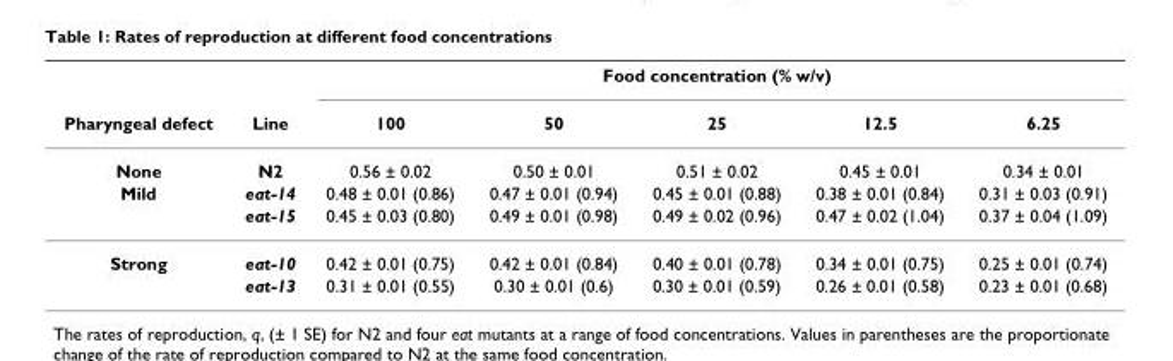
<table><thead><tr><td rowspan="2">Pharyngeal defect</td><td rowspan="2">Line</td><td colspan="5">Food concentration (% w/v)</td></tr><tr><td>100</td><td>50</td><td>25</td><td>12.5</td><td>6.25</td></tr></thead><tbody><tr><td>None</td><td>N2</td><td>0.56 ± 0.02</td><td>0.50 ± 0.01</td><td>0.51 ± 0.02</td><td>0.45 ± 0.01</td><td>0.34 ± 0.01</td></tr><tr><td rowspan="2">Mild</td><td>eat-14</td><td>0.48 ± 0.01 (0.86)</td><td>0.47 ± 0.01 (0.94)</td><td>0.45 ± 0.01 (0.88)</td><td>0.38 ± 0.01 (0.84)</td><td>0.31 ± 0.03 (0.91)</td></tr><tr><td>eat-15</td><td>0.45 ± 0.03 (0.80)</td><td>0.49 ± 0.01 (0.98)</td><td>0.49 ± 0.02 (0.96)</td><td>0.47 ± 0.02 (1.04)</td><td>0.37 ± 0.04 (1.09)</td></tr><tr><td rowspan="2">Strong</td><td>eat-10</td><td>0.42 ± 0.01 (0.75)</td><td>0.42 ± 0.01 (0.84)</td><td>0.40 ± 0.01 (0.78)</td><td>0.34 ± 0.01 (0.75)</td><td>0.25 ± 0.01 (0.74)</td></tr><tr><td>eat-13</td><td>0.31 ± 0.01 (0.55)</td><td>0.30 ± 0.01 (0.6)</td><td>0.30 ± 0.01 (0.59)</td><td>0.26 ± 0.01 (0.58)</td><td>0.23 ± 0.01 (0.68)</td></tr></tbody></table>